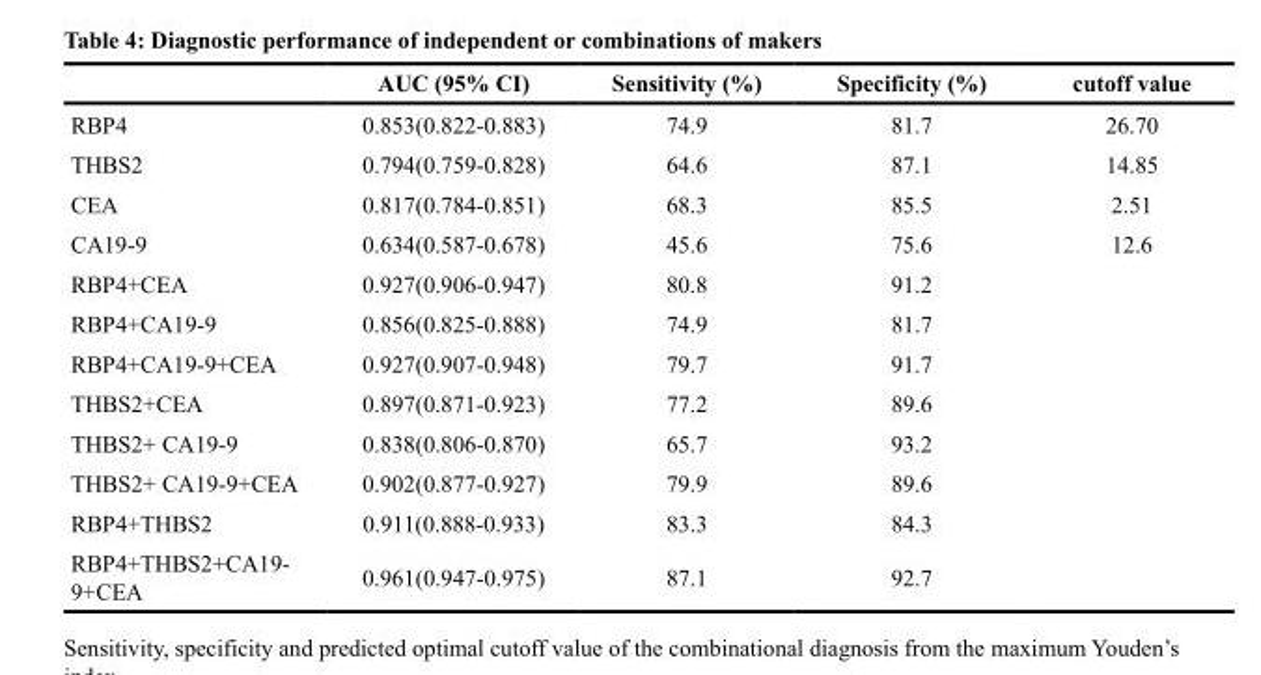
<table><thead><tr><td></td><td>AUC (95% CI)</td><td>Sensitivity (%)</td><td>Specificity (%)</td><td>cutoff value</td></tr></thead><tbody><tr><td>RBP4</td><td>0.853(0.822-0.883)</td><td>74.9</td><td>81.7</td><td>26.70</td></tr><tr><td>THBS2</td><td>0.794(0.759-0.828)</td><td>64.6</td><td>87.1</td><td>14.85</td></tr><tr><td>CEA</td><td>0.817(0.784-0.851)</td><td>68.3</td><td>85.5</td><td>2.51</td></tr><tr><td>CA19-9</td><td>0.634(0.587-0.678)</td><td>45.6</td><td>75.6</td><td>12.6</td></tr><tr><td>RBP4+CEA</td><td>0.927(0.906-0.947)</td><td>80.8</td><td>91.2</td><td></td></tr><tr><td>RBP4+CA19-9</td><td>0.856(0.825-0.888)</td><td>74.9</td><td>81.7</td><td></td></tr><tr><td>RBP4+CA19-9+CEA</td><td>0.927(0.907-0.948)</td><td>79.7</td><td>91.7</td><td></td></tr><tr><td>THBS2+CEA</td><td>0.897(0.871-0.923)</td><td>77.2</td><td>89.6</td><td></td></tr><tr><td>THBS2+ CA19-9</td><td>0.838(0.806-0.870)</td><td>65.7</td><td>93.2</td><td></td></tr><tr><td>THBS2+ CA19-9+CEA</td><td>0.902(0.877-0.927)</td><td>79.9</td><td>89.6</td><td></td></tr><tr><td>RBP4+THBS2</td><td>0.911(0.888-0.933)</td><td>83.3</td><td>84.3</td><td></td></tr><tr><td>RBP4+THBS2+CA19- 9+CEA</td><td>0.961(0.947-0.975)</td><td>87.1</td><td>92.7</td><td></td></tr></tbody></table>